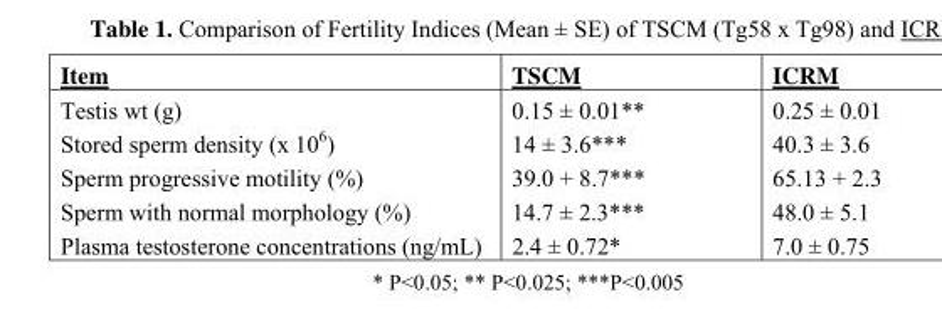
<table><thead><tr><td>Item</td><td>TSCM</td><td>ICRM</td></tr></thead><tbody><tr><td>Testis wt (g)</td><td>0.15 ± 0.01**</td><td>0.25 ± 0.01</td></tr><tr><td>Stored sperm density (x 10<sup>6</sup>)</td><td>14 ± 3.6***</td><td>40.3 ± 3.6</td></tr><tr><td>Sperm progressive motility (%)</td><td>39.0 + 8.7***</td><td>65.13 + 2.3</td></tr><tr><td>Sperm with normal morphology (%)</td><td>14.7 ± 2.3***</td><td>48.0 ± 5.1</td></tr><tr><td>Plasma testosterone concentrations (ng/mL)</td><td>2.4 ± 0.72*</td><td>7.0 ± 0.75</td></tr></tbody></table>